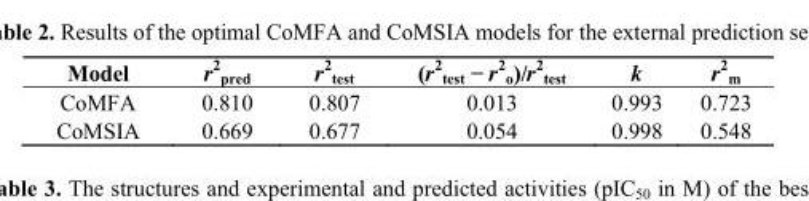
<table><thead><tr><td>Model</td><td>r<sup>2</sup> <sub>pred</sub></td><td>r<sup>2</sup> <sub>test</sub></td><td>(r<sup>2</sup> <sub>test</sub> − r<sup>2</sup> <sub>o</sub>)/r<sup>2</sup> <sub>test</sub></td><td>k</td><td>r<sup>2</sup> <sub>m</sub></td></tr></thead><tbody><tr><td>CoMFA</td><td>0.810</td><td>0.807</td><td>0.013</td><td>0.993</td><td>0.723</td></tr><tr><td>CoMSIA</td><td>0.669</td><td>0.677</td><td>0.054</td><td>0.998</td><td>0.548</td></tr></tbody></table>